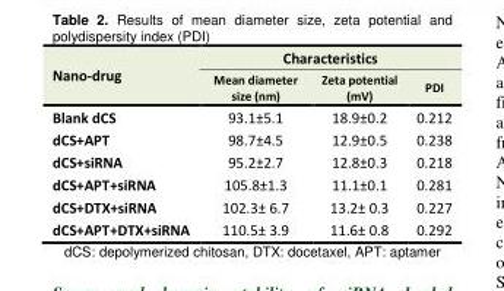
<table><tbody><tr><td rowspan="2">Nano-drug</td><td colspan="3">Characteristics</td></tr><tr><td>Mean diameter size (nm)</td><td>Zeta potential (mV)</td><td>PDI</td></tr><tr><td>Blank dCS</td><td>93.1±5.1</td><td>18.9±0.2</td><td>0.212</td></tr><tr><td>dCS+APT</td><td>98.7±4.5</td><td>12.9±0.5</td><td>0.238</td></tr><tr><td>dCS+siRNA</td><td>95.2±2.7</td><td>12.8±0.3</td><td>0.218</td></tr><tr><td>dCS+APT+siRNA</td><td>105.8±1.3</td><td>11.1±0.1</td><td>0.281</td></tr><tr><td>dCS+DTX+siRNA</td><td>102.3± 6.7</td><td>13.2± 0.3</td><td>0.227</td></tr><tr><td>dCS+APT+DTX+siRNA</td><td>110.5± 3.9</td><td>11.6± 0.8</td><td>0.292</td></tr></tbody></table>